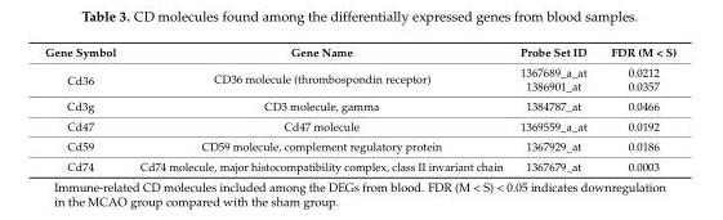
<table><thead><tr><td>Gene Symbol</td><td>Gene Name</td><td>Probe Set ID</td><td>FDR (M &lt; S)</td></tr></thead><tbody><tr><td rowspan="2">Cd36</td><td rowspan="2">CD36 molecule (thrombospondin receptor)</td><td>1367689_a_at</td><td>0.0212</td></tr><tr><td>1386901_at</td><td>0.0357</td></tr><tr><td>Cd3g</td><td>CD3 molecule, gamma</td><td>1384787_at</td><td>0.0466</td></tr><tr><td>Cd47</td><td>Cd47 molecule</td><td>1369559_a_at</td><td>0.0192</td></tr><tr><td>Cd59</td><td>CD59 molecule, complement regulatory protein</td><td>1367929_at</td><td>0.0186</td></tr><tr><td>Cd74</td><td>Cd74 molecule, major histocompatibility complex, class II invariant chain</td><td>1367679_at</td><td>0.0003</td></tr></tbody></table>